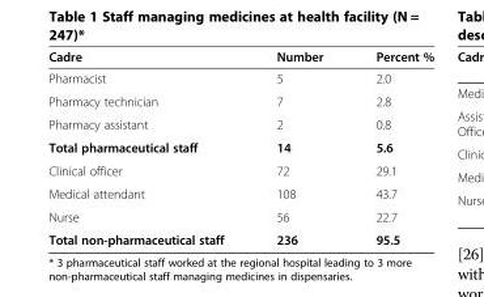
<table><thead><tr><td>Cadre</td><td>Number</td><td>Percent %</td></tr></thead><tbody><tr><td>Pharmacist</td><td>5</td><td>2.0</td></tr><tr><td>Pharmacy technician</td><td>7</td><td>2.8</td></tr><tr><td>Pharmacy assistant</td><td>2</td><td>0.8</td></tr><tr><td>Total pharmaceutical staff</td><td>14</td><td>5.6</td></tr><tr><td>Clinical officer</td><td>72</td><td>29.1</td></tr><tr><td>Medical attendant</td><td>108</td><td>43.7</td></tr><tr><td>Nurse</td><td>56</td><td>22.7</td></tr><tr><td>Total non-pharmaceutical staff</td><td>236</td><td>95.5</td></tr></tbody></table>